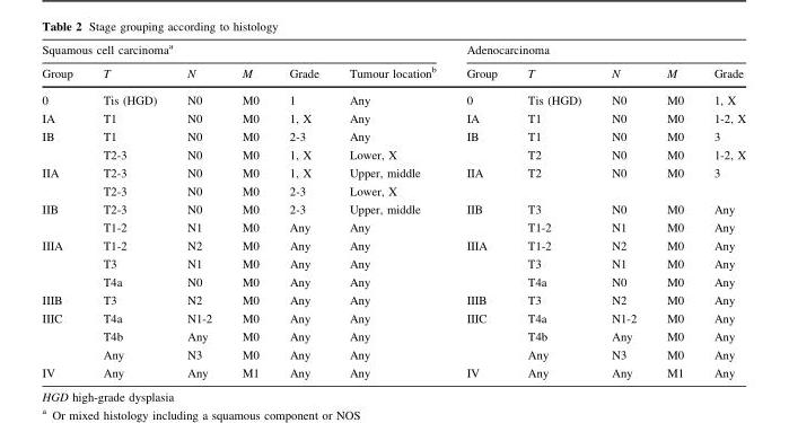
<table><thead><tr><td colspan="6">Squamous cell carcinoma<sup>a</sup></td><td colspan="5">Adenocarcinoma</td></tr><tr><td>Group</td><td>T</td><td>N</td><td>M</td><td>Grade</td><td>Tumour location<sup>b</sup></td><td>Group</td><td>T</td><td>N</td><td>M</td><td>Grade</td></tr></thead><tbody><tr><td>0</td><td>Tis (HGD)</td><td>N0</td><td>M0</td><td>1</td><td>Any</td><td>0</td><td>Tis (HGD)</td><td>N0</td><td>M0</td><td>1, X</td></tr><tr><td>IA</td><td>T1</td><td>N0</td><td>M0</td><td>1, X</td><td>Any</td><td>IA</td><td>T1</td><td>N0</td><td>M0</td><td>1-2, X</td></tr><tr><td>IB</td><td>T1 T2-3</td><td>N0 N0</td><td>M0 M0</td><td>2-3 1, X</td><td>Any Lower, X</td><td>IB</td><td>T1 T2</td><td>N0 N0</td><td>M0 M0</td><td>3 1-2, X</td></tr><tr><td>IIA</td><td>T2-3 T2-3</td><td>N0 N0</td><td>M0 M0</td><td>1, X 2-3</td><td>Upper, middle Lower, X</td><td>IIA</td><td>T2</td><td>N0</td><td>M0</td><td>3</td></tr><tr><td>IIB</td><td>T2-3 T1-2</td><td>N0 N1</td><td>M0 M0</td><td>2-3 Any</td><td>Upper, middle Any</td><td>IIB</td><td>T3 T1-2</td><td>N0 N1</td><td>M0 M0</td><td>Any Any</td></tr><tr><td>IIIA</td><td>T1-2 T3 T4a</td><td>N2 N1 N0</td><td>M0 M0 M0</td><td>Any Any Any</td><td>Any Any Any</td><td>IIIA</td><td>T1-2 T3 T4a</td><td>N2 N1 N0</td><td>M0 M0 M0</td><td>Any Any Any</td></tr><tr><td>IIIB</td><td>T3</td><td>N2</td><td>M0</td><td>Any</td><td>Any</td><td>IIIB</td><td>T3</td><td>N2</td><td>M0</td><td>Any</td></tr><tr><td>IIIC</td><td>T4a T4b Any</td><td>N1-2 Any N3</td><td>M0 M0 M0</td><td>Any Any Any</td><td>Any Any Any</td><td>IIIC</td><td>T4a T4b Any</td><td>N1-2 Any N3</td><td>M0 M0 M0</td><td>Any Any Any</td></tr><tr><td>IV</td><td>Any</td><td>Any</td><td>M1</td><td>Any</td><td>Any</td><td>IV</td><td>Any</td><td>Any</td><td>M1</td><td>Any</td></tr></tbody></table>